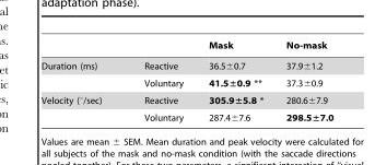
<table><thead><tr><td></td><td></td><td>Mask</td><td>No-mask</td></tr></thead><tbody><tr><td rowspan="2">Duration (ms)</td><td>Reactive</td><td>36.5±0.7</td><td>37.9±1.2</td></tr><tr><td>Voluntary</td><td>41.5±0.9 **</td><td>37.3±0.9</td></tr><tr><td rowspan="2">Velocity (°/sec)</td><td>Reactive</td><td>305.9±5.8 *</td><td>280.6±7.9</td></tr><tr><td>Voluntary</td><td>287.4±7.6</td><td>298.5±7.0</td></tr></tbody></table>